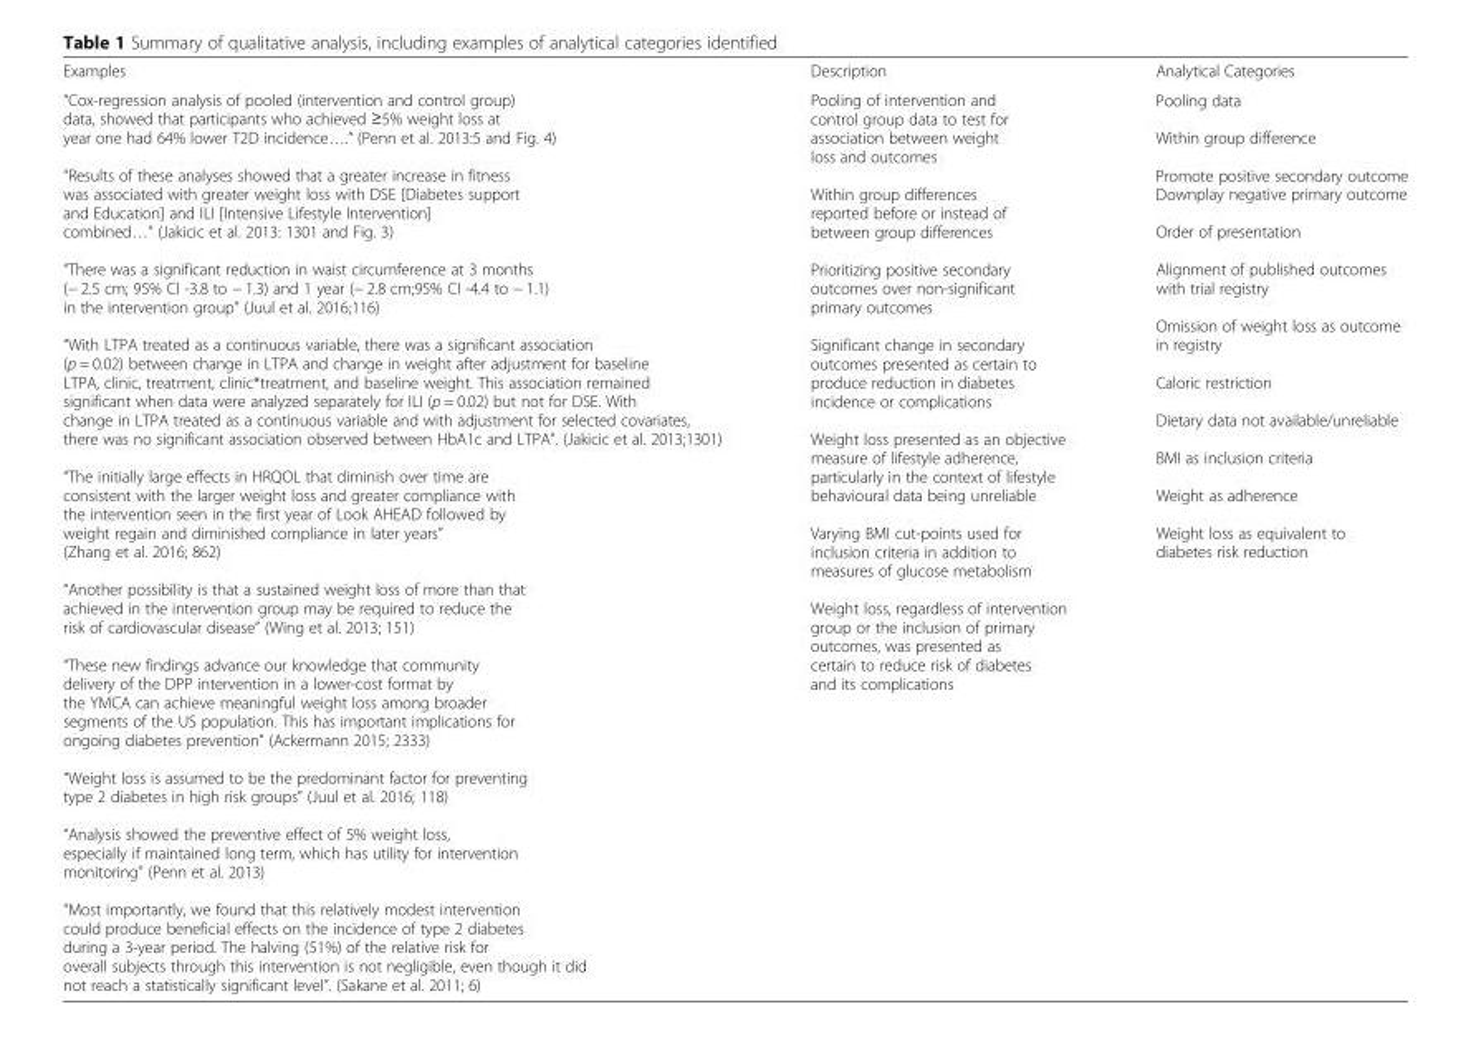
<table><tbody><tr><td>Examples</td><td>Description</td><td>Analytical Categories</td></tr><tr><td>“Cox-regression analysis of pooled (intervention and control group) data, showed that participants who achieved ≥5% weight loss at year one had 64% lower T2D incidence….” (Penn et al. 2013:5 and Fig. 4) “Results of these analyses showed that a greater increase in fitness was associated with greater weight loss with DSE [Diabetes support and Education] and ILI [Intensive Lifestyle Intervention] combined…” (Jakicic et al. 2013: 1301 and Fig. 3) “There was a significant reduction in waist circumference at 3 months (− 2.5 cm; 95% CI -3.8 to − 1.3) and 1 year (− 2.8 cm;95% CI -4.4 to − 1.1) in the intervention group” (Juul et al. 2016;116) “With LTPA treated as a continuous variable, there was a significant association (p = 0.02) between change in LTPA and change in weight after adjustment for baseline LTPA, clinic, treatment, clinic*treatment, and baseline weight. This association remained significant when data were analyzed separately for ILI (p = 0.02) but not for DSE. With change in LTPA treated as a continuous variable and with adjustment for selected covariates, there was no significant association observed between HbA1c and LTPA”. (Jakicic et al. 2013;1301) “The initially large effects in HRQOL that diminish over time are consistent with the larger weight loss and greater compliance with the intervention seen in the first year of Look AHEAD followed by weight regain and diminished compliance in later years” (Zhang et al. 2016; 862) “Another possibility is that a sustained weight loss of more than that achieved in the intervention group may be required to reduce the risk of cardiovascular disease” (Wing et al. 2013; 151) “These new findings advance our knowledge that community delivery of the DPP intervention in a lower-cost format by the YMCA can achieve meaningful weight loss among broader segments of the US population. This has important implications for ongoing diabetes prevention” (Ackermann 2015; 2333) “Weight loss is assumed to be the predominant factor for preventing type 2 diabetes in high risk groups” (Juul et al. 2016; 118) “Analysis showed the preventive effect of 5% weight loss, especially if maintained long term, which has utility for intervention monitoring” (Penn et al. 2013) “Most importantly, we found that this relatively modest intervention could produce beneficial effects on the incidence of type 2 diabetes during a 3-year period. The halving (51%) of the relative risk for overall subjects through this intervention is not negligible, even though it did not reach a statistically significant level”. (Sakane et al. 2011; 6)</td><td>Pooling of intervention and control group data to test for association between weight loss and outcomes Within group differences reported before or instead of between group differences Prioritizing positive secondary outcomes over non-significant primary outcomes Significant change in secondary outcomes presented as certain to produce reduction in diabetes incidence or complications Weight loss presented as an objective measure of lifestyle adherence, particularly in the context of lifestyle behavioural data being unreliable Varying BMI cut-points used for inclusion criteria in addition to measures of glucose metabolism Weight loss, regardless of intervention group or the inclusion of primary outcomes, was presented as certain to reduce risk of diabetes and its complications</td><td>Pooling data Within group difference Promote positive secondary outcome Downplay negative primary outcome Order of presentation Alignment of published outcomes with trial registry Omission of weight loss as outcome in registry Caloric restriction Dietary data not available/unreliable BMI as inclusion criteria Weight as adherence Weight loss as equivalent to diabetes risk reduction</td></tr></tbody></table>